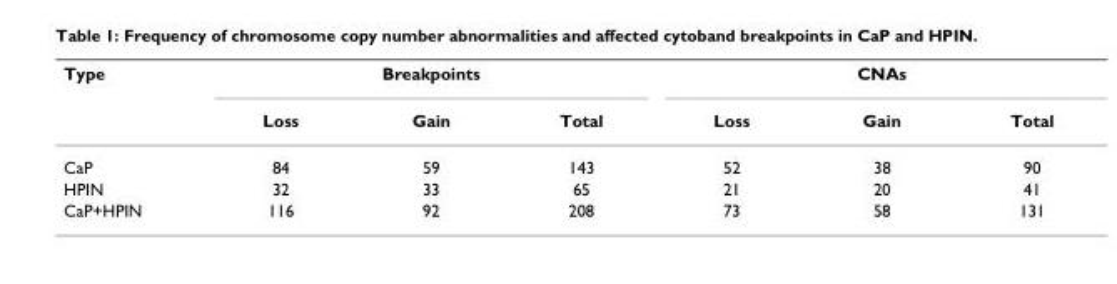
<table><thead><tr><td rowspan="2">Type</td><td colspan="3">Breakpoints</td><td colspan="3">CNAs</td></tr><tr><td>Loss</td><td>Gain</td><td>Total</td><td>Loss</td><td>Gain</td><td>Total</td></tr></thead><tbody><tr><td>CaP</td><td>84</td><td>59</td><td>143</td><td>52</td><td>38</td><td>90</td></tr><tr><td>HPIN</td><td>32</td><td>33</td><td>65</td><td>21</td><td>20</td><td>41</td></tr><tr><td>CaP+HPIN</td><td>116</td><td>92</td><td>208</td><td>73</td><td>58</td><td>131</td></tr></tbody></table>